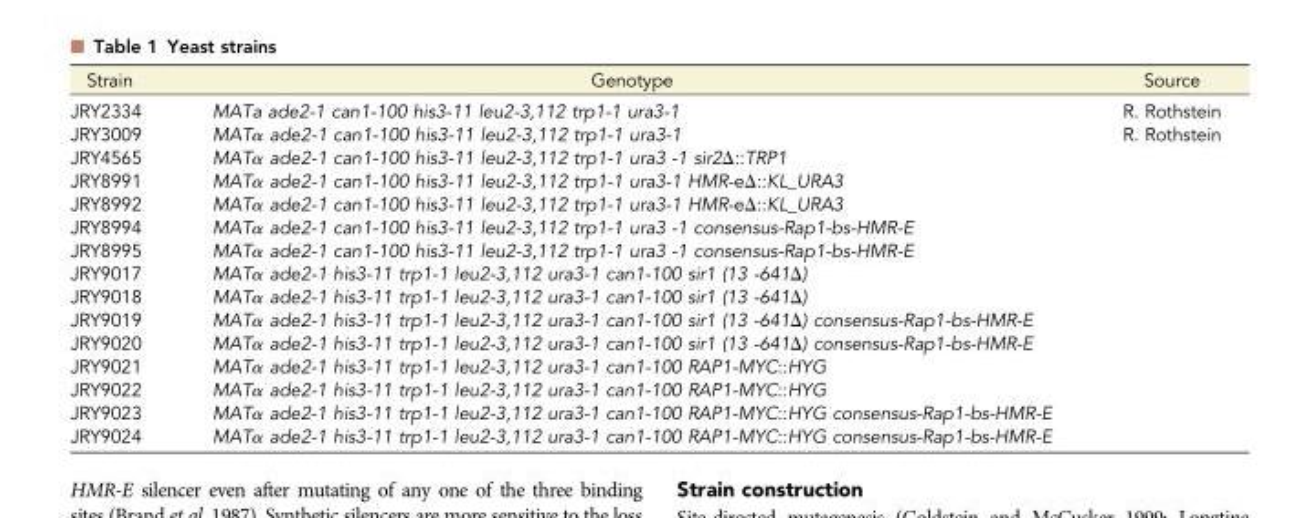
<table><thead><tr><td>Strain</td><td>Genotype</td><td>Source</td></tr></thead><tbody><tr><td>JRY2334</td><td>MATa ade2-1 can1-100 his3-11 leu2-3,112 trp1-1 ura3-1</td><td>R. Rothstein</td></tr><tr><td>JRY3009</td><td>MATα ade2-1 can1-100 his3-11 leu2-3,112 trp1-1 ura3-1</td><td>R. Rothstein</td></tr><tr><td>JRY4565</td><td>MATα ade2-1 can1-100 his3-11 leu2-3,112 trp1-1 ura3 -1 sir2Δ::TRP1</td><td></td></tr><tr><td>JRY8991</td><td>MATα ade2-1 can1-100 his3-11 leu2-3,112 trp1-1 ura3-1 HMR-eΔ::KL_URA3</td><td></td></tr><tr><td>JRY8992</td><td>MATα ade2-1 can1-100 his3-11 leu2-3,112 trp1-1 ura3-1 HMR-eΔ::KL_URA3</td><td></td></tr><tr><td>JRY8994</td><td>MATα ade2-1 can1-100 his3-11 leu2-3,112 trp1-1 ura3 -1 consensus-Rap1-bs-HMR-E</td><td></td></tr><tr><td>JRY8995</td><td>MATα ade2-1 can1-100 his3-11 leu2-3,112 trp1-1 ura3 -1 consensus-Rap1-bs-HMR-E</td><td></td></tr><tr><td>JRY9017</td><td>MATα ade2-1 his3-11 trp1-1 leu2-3,112 ura3-1 can1-100 sir1 (13 -641Δ)</td><td></td></tr><tr><td>JRY9018</td><td>MATα ade2-1 his3-11 trp1-1 leu2-3,112 ura3-1 can1-100 sir1 (13 -641Δ)</td><td></td></tr><tr><td>JRY9019</td><td>MATα ade2-1 his3-11 trp1-1 leu2-3,112 ura3-1 can1-100 sir1 (13 -641Δ) consensus-Rap1-bs-HMR-E</td><td></td></tr><tr><td>JRY9020</td><td>MATα ade2-1 his3-11 trp1-1 leu2-3,112 ura3-1 can1-100 sir1 (13 -641Δ) consensus-Rap1-bs-HMR-E</td><td></td></tr><tr><td>JRY9021</td><td>MATα ade2-1 his3-11 trp1-1 leu2-3,112 ura3-1 can1-100 RAP1-MYC::HYG</td><td></td></tr><tr><td>JRY9022</td><td>MATα ade2-1 his3-11 trp1-1 leu2-3,112 ura3-1 can1-100 RAP1-MYC::HYG</td><td></td></tr><tr><td>JRY9023</td><td>MATα ade2-1 his3-11 trp1-1 leu2-3,112 ura3-1 can1-100 RAP1-MYC::HYG consensus-Rap1-bs-HMR-E</td><td></td></tr><tr><td>JRY9024</td><td>MATα ade2-1 his3-11 trp1-1 leu2-3,112 ura3-1 can1-100 RAP1-MYC::HYG consensus-Rap1-bs-HMR-E</td><td></td></tr></tbody></table>